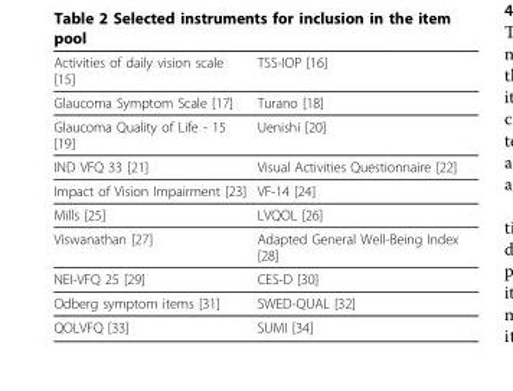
<table><thead><tr><td>Activities of daily vision scale [15]</td><td>TSS-IOP [16]</td></tr></thead><tbody><tr><td>Glaucoma Symptom Scale [17]</td><td>Turano [18]</td></tr><tr><td>Glaucoma Quality of Life - 15 [19]</td><td>Uenishi [20]</td></tr><tr><td>IND VFQ 33 [21]</td><td>Visual Activities Questionnaire [22]</td></tr><tr><td>Impact of Vision Impairment [23]</td><td>VF-14 [24]</td></tr><tr><td>Mills [25]</td><td>LVQOL [26]</td></tr><tr><td>Viswanathan [27]</td><td>Adapted General Well-Being Index [28]</td></tr><tr><td>NEI-VFQ 25 [29]</td><td>CES-D [30]</td></tr><tr><td>Odberg symptom items [31]</td><td>SWED-QUAL [32]</td></tr><tr><td>QOLVFQ [33]</td><td>SUMI [34]</td></tr></tbody></table>